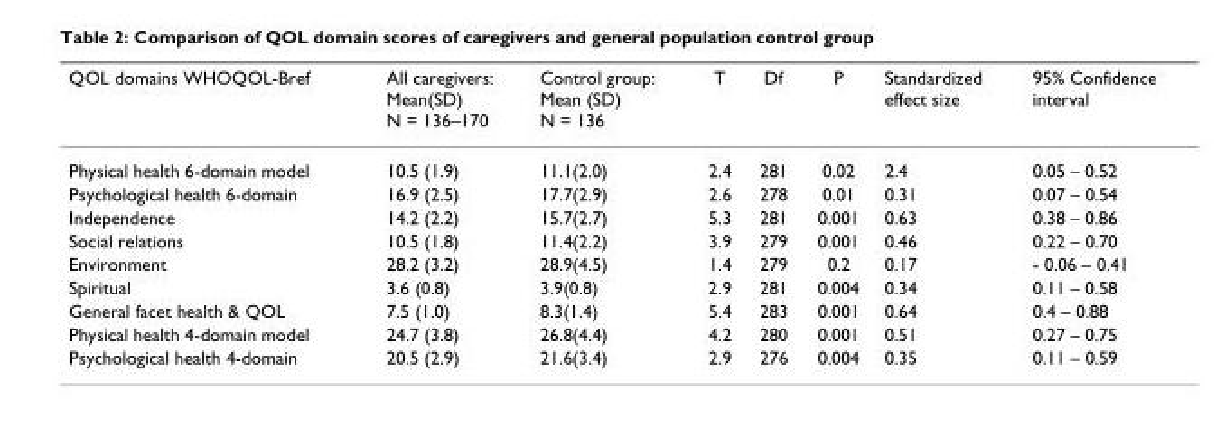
<table><thead><tr><td>QOL domains WHOQOL-Bref</td><td>All caregivers: Mean(SD) N = 136–170</td><td>Control group: Mean (SD) N = 136</td><td>T</td><td>Df</td><td>P</td><td>Standardized effect size</td><td>95% Confidence interval</td></tr></thead><tbody><tr><td>Physical health 6-domain model</td><td>10.5 (1.9)</td><td>11.1(2.0)</td><td>2.4</td><td>281</td><td>0.02</td><td>2.4</td><td>0.05 – 0.52</td></tr><tr><td>Psychological health 6-domain</td><td>16.9 (2.5)</td><td>17.7(2.9)</td><td>2.6</td><td>278</td><td>0.01</td><td>0.31</td><td>0.07 – 0.54</td></tr><tr><td>Independence</td><td>14.2 (2.2)</td><td>15.7(2.7)</td><td>5.3</td><td>281</td><td>0.001</td><td>0.63</td><td>0.38 – 0.86</td></tr><tr><td>Social relations</td><td>10.5 (1.8)</td><td>11.4(2.2)</td><td>3.9</td><td>279</td><td>0.001</td><td>0.46</td><td>0.22 – 0.70</td></tr><tr><td>Environment</td><td>28.2 (3.2)</td><td>28.9(4.5)</td><td>1.4</td><td>279</td><td>0.2</td><td>0.17</td><td>- 0.06 – 0.41</td></tr><tr><td>Spiritual</td><td>3.6 (0.8)</td><td>3.9(0.8)</td><td>2.9</td><td>281</td><td>0.004</td><td>0.34</td><td>0.11 – 0.58</td></tr><tr><td>General facet health &amp; QOL</td><td>7.5 (1.0)</td><td>8.3(1.4)</td><td>5.4</td><td>283</td><td>0.001</td><td>0.64</td><td>0.4 – 0.88</td></tr><tr><td>Physical health 4-domain model</td><td>24.7 (3.8)</td><td>26.8(4.4)</td><td>4.2</td><td>280</td><td>0.001</td><td>0.51</td><td>0.27 – 0.75</td></tr><tr><td>Psychological health 4-domain</td><td>20.5 (2.9)</td><td>21.6(3.4)</td><td>2.9</td><td>276</td><td>0.004</td><td>0.35</td><td>0.11 – 0.59</td></tr></tbody></table>